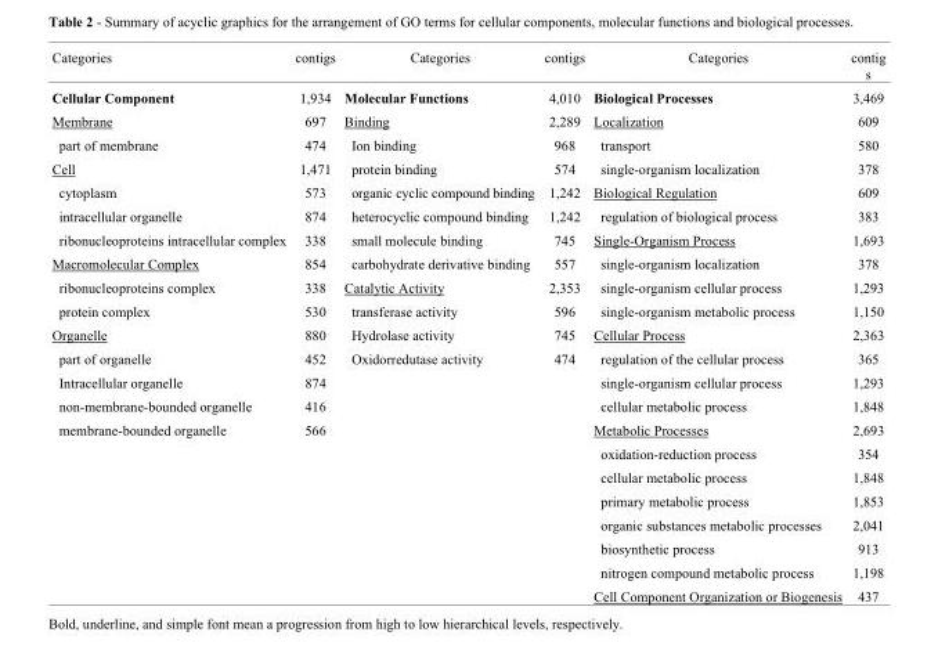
<table><thead><tr><td>Categories</td><td>contigs</td><td>Categories</td><td>contigs</td><td>Categories</td><td>contig s</td></tr></thead><tbody><tr><td>Cellular Component</td><td>1,934</td><td>Molecular Functions</td><td>4,010</td><td>Biological Processes</td><td>3,469</td></tr><tr><td>Membrane</td><td>697</td><td>Binding</td><td>2,289</td><td>Localization</td><td>609</td></tr><tr><td>part of membrane</td><td>474</td><td>Ion binding</td><td>968</td><td>transport</td><td>580</td></tr><tr><td>Cell</td><td>1,471</td><td>protein binding</td><td>574</td><td>single-organism localization</td><td>378</td></tr><tr><td>cytoplasm</td><td>573</td><td>organic cyclic compound binding</td><td>1,242</td><td>Biological Regulation</td><td>609</td></tr><tr><td>intracellular organelle</td><td>874</td><td>heterocyclic compound binding</td><td>1,242</td><td>regulation of biological process</td><td>383</td></tr><tr><td>ribonucleoproteins intracellular complex</td><td>338</td><td>small molecule binding</td><td>745</td><td>Single-Organism Process</td><td>1,693</td></tr><tr><td>Macromolecular Complex</td><td>854</td><td>carbohydrate derivative binding</td><td>557</td><td>single-organism localization</td><td>378</td></tr><tr><td>ribonucleoproteins complex</td><td>338</td><td>Catalytic Activity</td><td>2,353</td><td>single-organism cellular process</td><td>1,293</td></tr><tr><td>protein complex</td><td>530</td><td>transferase activity</td><td>596</td><td>single-organism metabolic process</td><td>1,150</td></tr><tr><td>Organelle</td><td>880</td><td>Hydrolase activity</td><td>745</td><td>Cellular Process</td><td>2,363</td></tr><tr><td>part of organelle</td><td>452</td><td>Oxidorredutase activity</td><td>474</td><td>regulation of the cellular process</td><td>365</td></tr><tr><td>Intracellular organelle</td><td>874</td><td></td><td></td><td>single-organism cellular process</td><td>1,293</td></tr><tr><td>non-membrane-bounded organelle</td><td>416</td><td></td><td></td><td>cellular metabolic process</td><td>1,848</td></tr><tr><td rowspan="8">membrane-bounded organelle</td><td>566</td><td></td><td></td><td>Metabolic Processes</td><td>2,693</td></tr><tr><td></td><td></td><td></td><td>oxidation-reduction process</td><td>354</td></tr><tr><td></td><td></td><td></td><td>cellular metabolic process</td><td>1,848</td></tr><tr><td></td><td></td><td></td><td>primary metabolic process</td><td>1,853</td></tr><tr><td></td><td></td><td></td><td>organic substances metabolic processes</td><td>2,041</td></tr><tr><td></td><td></td><td></td><td>biosynthetic process</td><td>913</td></tr><tr><td></td><td></td><td></td><td>nitrogen compound metabolic process</td><td>1,198</td></tr><tr><td></td><td></td><td></td><td>Cell Component Organization or Biogenesis</td><td>437</td></tr></tbody></table>